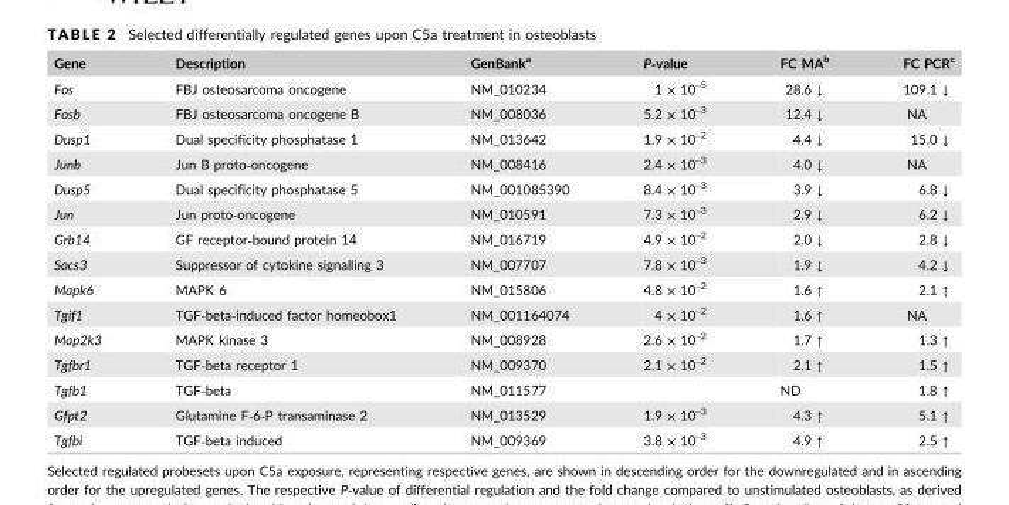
<table><thead><tr><td>Gene</td><td>Description</td><td>GenBank<sup>a</sup></td><td>P‐value</td><td>FC MA<sup>b</sup></td><td>FC PCR<sup>c</sup></td></tr></thead><tbody><tr><td>Fos</td><td>FBJ osteosarcoma oncogene</td><td>NM_010234</td><td>1 × 10<sup>–5</sup></td><td>28.6 ↓</td><td>109.1 ↓</td></tr><tr><td>Fosb</td><td>FBJ osteosarcoma oncogene B</td><td>NM_008036</td><td>5.2 × 10<sup>–3</sup></td><td>12.4 ↓</td><td>NA</td></tr><tr><td>Dusp1</td><td>Dual specificity phosphatase 1</td><td>NM_013642</td><td>1.9 × 10<sup>–2</sup></td><td>4.4 ↓</td><td>15.0 ↓</td></tr><tr><td>Junb</td><td>Jun B proto‐oncogene</td><td>NM_008416</td><td>2.4 × 10<sup>–3</sup></td><td>4.0 ↓</td><td>NA</td></tr><tr><td>Dusp5</td><td>Dual specificity phosphatase 5</td><td>NM_001085390</td><td>8.4 × 10<sup>–3</sup></td><td>3.9 ↓</td><td>6.8 ↓</td></tr><tr><td>Jun</td><td>Jun proto‐oncogene</td><td>NM_010591</td><td>7.3 × 10<sup>–3</sup></td><td>2.9 ↓</td><td>6.2 ↓</td></tr><tr><td>Grb14</td><td>GF receptor‐bound protein 14</td><td>NM_016719</td><td>4.9 × 10<sup>–2</sup></td><td>2.0 ↓</td><td>2.8 ↓</td></tr><tr><td>Socs3</td><td>Suppressor of cytokine signalling 3</td><td>NM_007707</td><td>7.8 × 10<sup>–3</sup></td><td>1.9 ↓</td><td>4.2 ↓</td></tr><tr><td>Mapk6</td><td>MAPK 6</td><td>NM_015806</td><td>4.8 × 10<sup>–2</sup></td><td>1.6 ↑</td><td>2.1 ↑</td></tr><tr><td>Tgif1</td><td>TGF‐beta‐induced factor homeobox1</td><td>NM_001164074</td><td>4 × 10<sup>–2</sup></td><td>1.6 ↑</td><td>NA</td></tr><tr><td>Map2k3</td><td>MAPK kinase 3</td><td>NM_008928</td><td>2.6 × 10<sup>–2</sup></td><td>1.7 ↑</td><td>1.3 ↑</td></tr><tr><td>Tgfbr1</td><td>TGF‐beta receptor 1</td><td>NM_009370</td><td>2.1 × 10<sup>–2</sup></td><td>2.1 ↑</td><td>1.5 ↑</td></tr><tr><td>Tgfb1</td><td>TGF‐beta</td><td>NM_011577</td><td></td><td>ND</td><td>1.8 ↑</td></tr><tr><td>Gfpt2</td><td>Glutamine F‐6‐P transaminase 2</td><td>NM_013529</td><td>1.9 × 10<sup>–3</sup></td><td>4.3 ↑</td><td>5.1 ↑</td></tr><tr><td>Tgfbi</td><td>TGF‐beta induced</td><td>NM_009369</td><td>3.8 × 10<sup>–3</sup></td><td>4.9 ↑</td><td>2.5 ↑</td></tr></tbody></table>